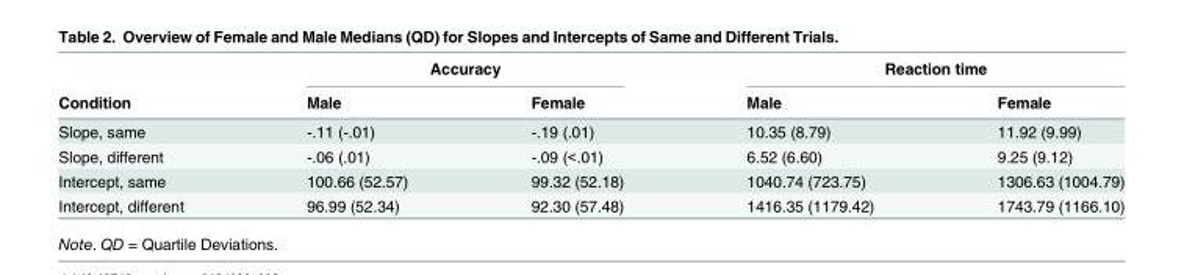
<table><thead><tr><td rowspan="2">Condition</td><td colspan="2">Accuracy</td><td colspan="2">Reaction time</td></tr><tr><td>Male</td><td>Female</td><td>Male</td><td>Female</td></tr></thead><tbody><tr><td>Slope, same</td><td>-.11 (-.01)</td><td>-.19 (.01)</td><td>10.35 (8.79)</td><td>11.92 (9.99)</td></tr><tr><td>Slope, different</td><td>-.06 (.01)</td><td>-.09 (&lt;.01)</td><td>6.52 (6.60)</td><td>9.25 (9.12)</td></tr><tr><td>Intercept, same</td><td>100.66 (52.57)</td><td>99.32 (52.18)</td><td>1040.74 (723.75)</td><td>1306.63 (1004.79)</td></tr><tr><td>Intercept, different</td><td>96.99 (52.34)</td><td>92.30 (57.48)</td><td>1416.35 (1179.42)</td><td>1743.79 (1166.10)</td></tr></tbody></table>